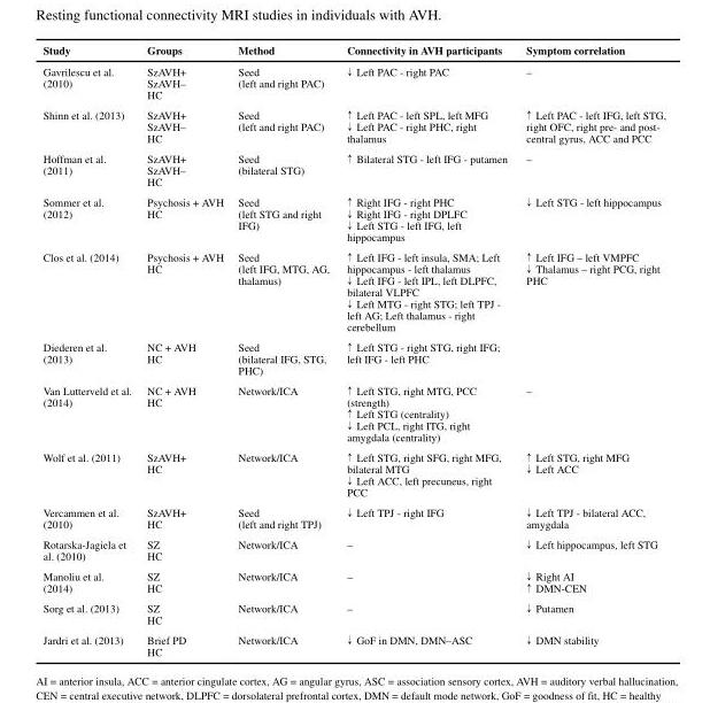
<table><thead><tr><td>Study</td><td>Groups</td><td>Method</td><td>Connectivity in AVH participants</td><td>Symptom correlation</td></tr></thead><tbody><tr><td>Gavrilescu et al. (2010)</td><td>SzAVH+ SzAVH– HC</td><td>Seed (left and right PAC)</td><td>↓ Left PAC - right PAC</td><td>–</td></tr><tr><td>Shinn et al. (2013)</td><td>SzAVH+ SzAVH– HC</td><td>Seed (left and right PAC)</td><td>↑ Left PAC - left SPL, left MFG ↓ Left PAC - right PHC, right thalamus</td><td>↑ Left PAC - left IFG, left STG, right OFC, right pre- and post- central gyrus, ACC and PCC</td></tr><tr><td>Hoffman et al. (2011)</td><td>SzAVH+ SzAVH– HC</td><td>Seed (bilateral STG)</td><td>↑ Bilateral STG - left IFG - putamen</td><td>–</td></tr><tr><td>Sommer et al. (2012)</td><td>Psychosis + AVH HC</td><td>Seed (left STG and right IFG)</td><td>↑ Right IFG - right PHC ↓ Right IFG - right DPLFC ↓ Left STG - left IFG, left hippocampus</td><td>↓ Left STG - left hippocampus</td></tr><tr><td>Clos et al. (2014)</td><td>Psychosis + AVH HC</td><td>Seed (left IFG, MTG, AG, thalamus)</td><td>↑ Left IFG - left insula, SMA; Left hippocampus - left thalamus ↓ Left IFG - left IPL, left DLPFC, bilateral VLPFC ↓ Left MTG - right STG; left TPJ - left AG; Left thalamus - right cerebellum</td><td>↑ Left IFG – left VMPFC ↓ Thalamus – right PCG, right PHC</td></tr><tr><td>Diederen et al. (2013)</td><td>NC + AVH HC</td><td>Seed (bilateral IFG, STG, PHC)</td><td>↑ Left STG - right STG, right IFG; left IFG - left PHC</td><td></td></tr><tr><td>Van Lutterveld et al. (2014)</td><td>NC + AVH HC</td><td>Network/ICA</td><td>↑ Left STG, right MTG, PCC (strength) ↑ Left STG (centrality) ↓ Left PCL, right ITG, right amygdala (centrality)</td><td>–</td></tr><tr><td>Wolf et al. (2011)</td><td>SzAVH+ HC</td><td>Network/ICA</td><td>↑ Left STG, right SFG, right MFG, bilateral MTG ↓ Left ACC, left precuneus, right PCC</td><td>↑ Left STG, right MFG ↓ Left ACC</td></tr><tr><td>Vercammen et al. (2010)</td><td>SzAVH+ HC</td><td>Seed (left and right TPJ)</td><td>↓ Left TPJ - right IFG</td><td>↓ Left TPJ - bilateral ACC, amygdala</td></tr><tr><td>Rotarska-Jagiela et al. (2010)</td><td>SZ HC</td><td>Network/ICA</td><td>–</td><td>↓ Left hippocampus, left STG</td></tr><tr><td>Manoliu et al. (2014)</td><td>SZ HC</td><td>Network/ICA</td><td>–</td><td>↓ Right AI ↑ DMN-CEN</td></tr><tr><td>Sorg et al. (2013)</td><td>SZ HC</td><td>Network/ICA</td><td>–</td><td>↓ Putamen</td></tr><tr><td>Jardri et al. (2013)</td><td>Brief PD HC</td><td>Network/ICA</td><td>↓ GoF in DMN, DMN–ASC</td><td>↓ DMN stability</td></tr></tbody></table>